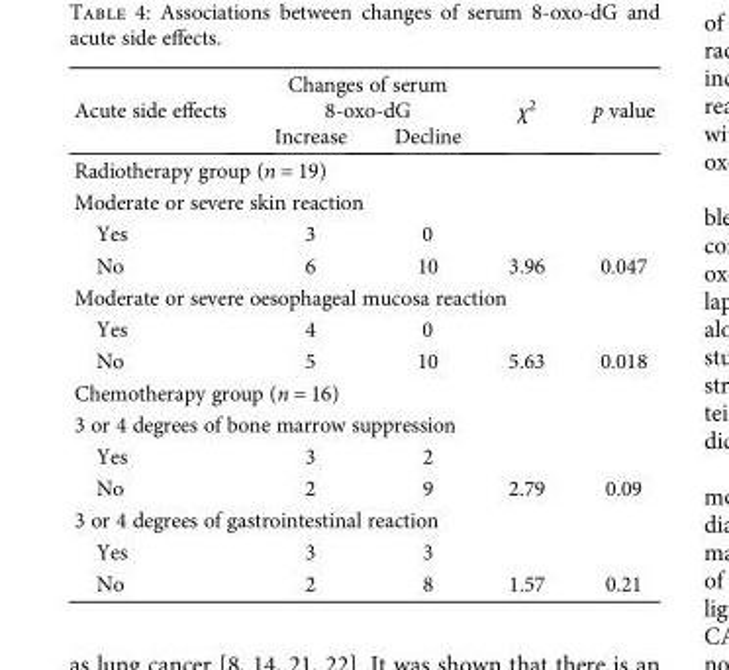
<table><thead><tr><td rowspan="2">Acute side effects</td><td colspan="2">Changes of serum 8-oxo-dG</td><td rowspan="2">χ<sup>2</sup></td><td rowspan="2">p value</td></tr><tr><td>Increase</td><td>Decline</td></tr></thead><tbody><tr><td colspan="5">Radiotherapy group (n = 19)</td></tr><tr><td colspan="5">Moderate or severe skin reaction</td></tr><tr><td>Yes</td><td>3</td><td>0</td><td></td><td></td></tr><tr><td>No</td><td>6</td><td>10</td><td>3.96</td><td>0.047</td></tr><tr><td colspan="5">Moderate or severe oesophageal mucosa reaction</td></tr><tr><td>Yes</td><td>4</td><td>0</td><td></td><td></td></tr><tr><td>No</td><td>5</td><td>10</td><td>5.63</td><td>0.018</td></tr><tr><td colspan="5">Chemotherapy group (n = 16)</td></tr><tr><td colspan="5">3 or 4 degrees of bone marrow suppression</td></tr><tr><td>Yes</td><td>3</td><td>2</td><td></td><td></td></tr><tr><td>No</td><td>2</td><td>9</td><td>2.79</td><td>0.09</td></tr><tr><td colspan="5">3 or 4 degrees of gastrointestinal reaction</td></tr><tr><td>Yes</td><td>3</td><td>3</td><td></td><td></td></tr><tr><td>No</td><td>2</td><td>8</td><td>1.57</td><td>0.21</td></tr></tbody></table>